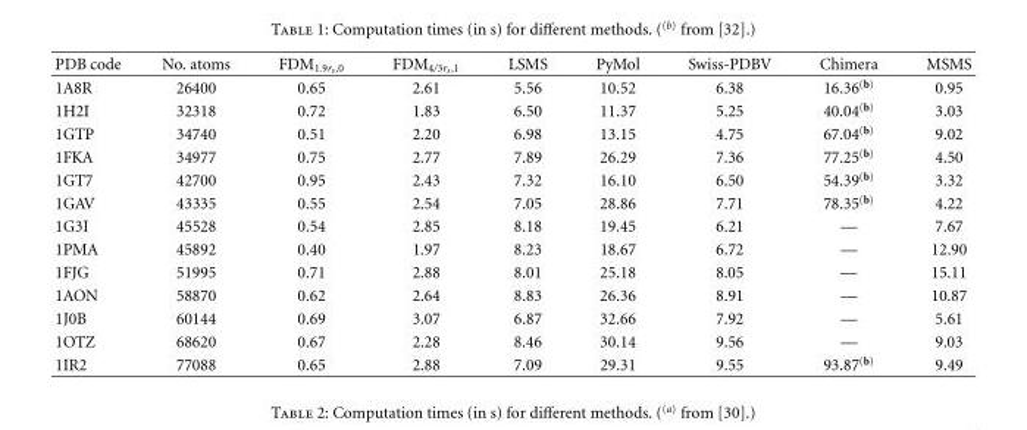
<table><thead><tr><td>PDB code</td><td>No. atoms</td><td>FDM<sub>1.9r</sub>s<sub>,0</sub></td><td>FDM<sub>4/3r</sub>s<sub>,1</sub></td><td>LSMS</td><td>PyMol</td><td>Swiss-PDBV</td><td>Chimera</td><td>MSMS</td></tr></thead><tbody><tr><td>1A8R</td><td>26400</td><td>0.65</td><td>2.61</td><td>5.56</td><td>10.52</td><td>6.38</td><td>16.36<sup>(b)</sup></td><td>0.95</td></tr><tr><td>1H2I</td><td>32318</td><td>0.72</td><td>1.83</td><td>6.50</td><td>11.37</td><td>5.25</td><td>40.04<sup>(b)</sup></td><td>3.03</td></tr><tr><td>1GTP</td><td>34740</td><td>0.51</td><td>2.20</td><td>6.98</td><td>13.15</td><td>4.75</td><td>67.04<sup>(b)</sup></td><td>9.02</td></tr><tr><td>1FKA</td><td>34977</td><td>0.75</td><td>2.77</td><td>7.89</td><td>26.29</td><td>7.36</td><td>77.25<sup>(b)</sup></td><td>4.50</td></tr><tr><td>1GT7</td><td>42700</td><td>0.95</td><td>2.43</td><td>7.32</td><td>16.10</td><td>6.50</td><td>54.39<sup>(b)</sup></td><td>3.32</td></tr><tr><td>1GAV</td><td>43335</td><td>0.55</td><td>2.54</td><td>7.05</td><td>28.86</td><td>7.71</td><td>78.35<sup>(b)</sup></td><td>4.22</td></tr><tr><td>1G3I</td><td>45528</td><td>0.54</td><td>2.85</td><td>8.18</td><td>19.45</td><td>6.21</td><td>—</td><td>7.67</td></tr><tr><td>1PMA</td><td>45892</td><td>0.40</td><td>1.97</td><td>8.23</td><td>18.67</td><td>6.72</td><td>—</td><td>12.90</td></tr><tr><td>1FJG</td><td>51995</td><td>0.71</td><td>2.88</td><td>8.01</td><td>25.18</td><td>8.05</td><td>—</td><td>15.11</td></tr><tr><td>1AON</td><td>58870</td><td>0.62</td><td>2.64</td><td>8.83</td><td>26.36</td><td>8.91</td><td>—</td><td>10.87</td></tr><tr><td>1J0B</td><td>60144</td><td>0.69</td><td>3.07</td><td>6.87</td><td>32.66</td><td>7.92</td><td>—</td><td>5.61</td></tr><tr><td>1OTZ</td><td>68620</td><td>0.67</td><td>2.28</td><td>8.46</td><td>30.14</td><td>9.56</td><td>—</td><td>9.03</td></tr><tr><td>1IR2</td><td>77088</td><td>0.65</td><td>2.88</td><td>7.09</td><td>29.31</td><td>9.55</td><td>93.87<sup>(b)</sup></td><td>9.49</td></tr></tbody></table>